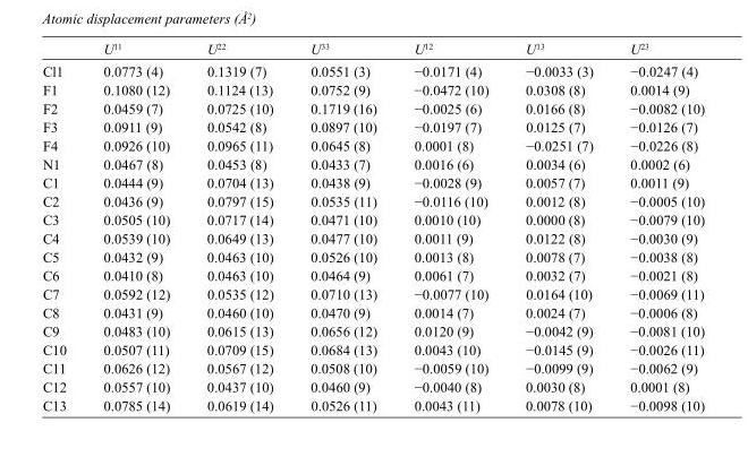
<table><thead><tr><td></td><td>U<sup>11</sup></td><td>U<sup>22</sup></td><td>U<sup>33</sup></td><td>U<sup>12</sup></td><td>U<sup>13</sup></td><td>U<sup>23</sup></td></tr></thead><tbody><tr><td>Cl1</td><td>0.0773 (4)</td><td>0.1319 (7)</td><td>0.0551 (3)</td><td>−0.0171 (4)</td><td>−0.0033 (3)</td><td>−0.0247 (4)</td></tr><tr><td>F1</td><td>0.1080 (12)</td><td>0.1124 (13)</td><td>0.0752 (9)</td><td>−0.0472 (10)</td><td>0.0308 (8)</td><td>0.0014 (9)</td></tr><tr><td>F2</td><td>0.0459 (7)</td><td>0.0725 (10)</td><td>0.1719 (16)</td><td>−0.0025 (6)</td><td>0.0166 (8)</td><td>−0.0082 (10)</td></tr><tr><td>F3</td><td>0.0911 (9)</td><td>0.0542 (8)</td><td>0.0897 (10)</td><td>−0.0197 (7)</td><td>0.0125 (7)</td><td>−0.0126 (7)</td></tr><tr><td>F4</td><td>0.0926 (10)</td><td>0.0965 (11)</td><td>0.0645 (8)</td><td>0.0001 (8)</td><td>−0.0251 (7)</td><td>−0.0226 (8)</td></tr><tr><td>N1</td><td>0.0467 (8)</td><td>0.0453 (8)</td><td>0.0433 (7)</td><td>0.0016 (6)</td><td>0.0034 (6)</td><td>0.0002 (6)</td></tr><tr><td>C1</td><td>0.0444 (9)</td><td>0.0704 (13)</td><td>0.0438 (9)</td><td>−0.0028 (9)</td><td>0.0057 (7)</td><td>0.0011 (9)</td></tr><tr><td>C2</td><td>0.0436 (9)</td><td>0.0797 (15)</td><td>0.0535 (11)</td><td>−0.0116 (10)</td><td>0.0012 (8)</td><td>−0.0005 (10)</td></tr><tr><td>C3</td><td>0.0505 (10)</td><td>0.0717 (14)</td><td>0.0471 (10)</td><td>0.0010 (10)</td><td>0.0000 (8)</td><td>−0.0079 (10)</td></tr><tr><td>C4</td><td>0.0539 (10)</td><td>0.0649 (13)</td><td>0.0477 (10)</td><td>0.0011 (9)</td><td>0.0122 (8)</td><td>−0.0030 (9)</td></tr><tr><td>C5</td><td>0.0432 (9)</td><td>0.0463 (10)</td><td>0.0526 (10)</td><td>0.0013 (8)</td><td>0.0078 (7)</td><td>−0.0038 (8)</td></tr><tr><td>C6</td><td>0.0410 (8)</td><td>0.0463 (10)</td><td>0.0464 (9)</td><td>0.0061 (7)</td><td>0.0032 (7)</td><td>−0.0021 (8)</td></tr><tr><td>C7</td><td>0.0592 (12)</td><td>0.0535 (12)</td><td>0.0710 (13)</td><td>−0.0077 (10)</td><td>0.0164 (10)</td><td>−0.0069 (11)</td></tr><tr><td>C8</td><td>0.0431 (9)</td><td>0.0460 (10)</td><td>0.0470 (9)</td><td>0.0014 (7)</td><td>0.0024 (7)</td><td>−0.0006 (8)</td></tr><tr><td>C9</td><td>0.0483 (10)</td><td>0.0615 (13)</td><td>0.0656 (12)</td><td>0.0120 (9)</td><td>−0.0042 (9)</td><td>−0.0081 (10)</td></tr><tr><td>C10</td><td>0.0507 (11)</td><td>0.0709 (15)</td><td>0.0684 (13)</td><td>0.0043 (10)</td><td>−0.0145 (9)</td><td>−0.0026 (11)</td></tr><tr><td>C11</td><td>0.0626 (12)</td><td>0.0567 (12)</td><td>0.0508 (10)</td><td>−0.0059 (10)</td><td>−0.0099 (9)</td><td>−0.0062 (9)</td></tr><tr><td>C12</td><td>0.0557 (10)</td><td>0.0437 (10)</td><td>0.0460 (9)</td><td>−0.0040 (8)</td><td>0.0030 (8)</td><td>0.0001 (8)</td></tr><tr><td>C13</td><td>0.0785 (14)</td><td>0.0619 (14)</td><td>0.0526 (11)</td><td>0.0043 (11)</td><td>0.0078 (10)</td><td>−0.0098 (10)</td></tr></tbody></table>